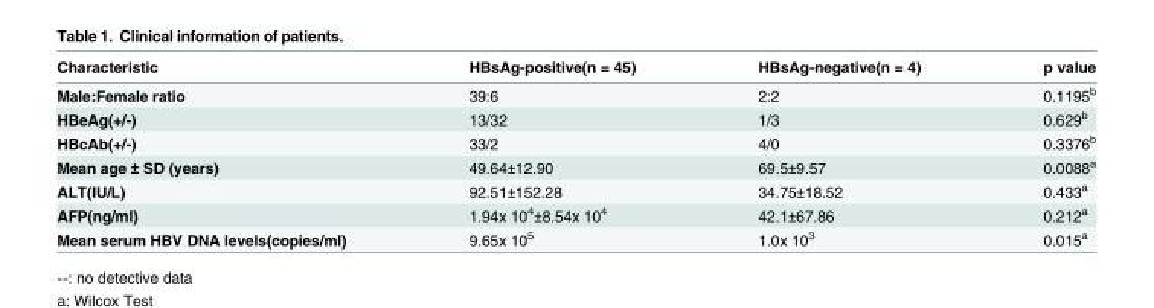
<table><thead><tr><td>Characteristic</td><td>HBsAg-positive(n = 45)</td><td>HBsAg-negative(n = 4)</td><td>p value</td></tr></thead><tbody><tr><td>Male:Female ratio</td><td>39:6</td><td>2:2</td><td>0.1195<sup>b</sup></td></tr><tr><td>HBeAg(+/-)</td><td>13/32</td><td>1/3</td><td>0.629<sup>b</sup></td></tr><tr><td>HBcAb(+/-)</td><td>33/2</td><td>4/0</td><td>0.3376<sup>b</sup></td></tr><tr><td>Mean age ± SD (years)</td><td>49.64±12.90</td><td>69.5±9.57</td><td>0.0088<sup>a</sup></td></tr><tr><td>ALT(IU/L)</td><td>92.51±152.28</td><td>34.75±18.52</td><td>0.433<sup>a</sup></td></tr><tr><td>AFP(ng/ml)</td><td>1.94x 10<sup>4</sup>±8.54x 10<sup>4</sup></td><td>42.1±67.86</td><td>0.212<sup>a</sup></td></tr><tr><td>Mean serum HBV DNA levels(copies/ml)</td><td>9.65x 10<sup>5</sup></td><td>1.0x 10<sup>3</sup></td><td>0.015<sup>a</sup></td></tr></tbody></table>